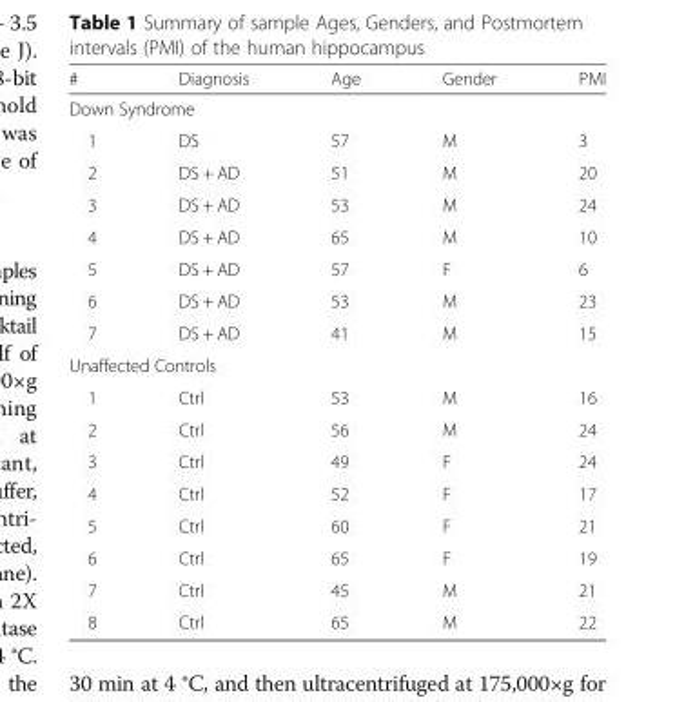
<table><thead><tr><td>#</td><td>Diagnosis</td><td>Age</td><td>Gender</td><td>PMI</td></tr></thead><tbody><tr><td colspan="5">Down Syndrome</td></tr><tr><td>1</td><td>DS</td><td>57</td><td>M</td><td>3</td></tr><tr><td>2</td><td>DS + AD</td><td>51</td><td>M</td><td>20</td></tr><tr><td>3</td><td>DS + AD</td><td>53</td><td>M</td><td>24</td></tr><tr><td>4</td><td>DS + AD</td><td>65</td><td>M</td><td>10</td></tr><tr><td>5</td><td>DS + AD</td><td>57</td><td>F</td><td>6</td></tr><tr><td>6</td><td>DS + AD</td><td>53</td><td>M</td><td>23</td></tr><tr><td>7</td><td>DS + AD</td><td>41</td><td>M</td><td>15</td></tr><tr><td colspan="5">Unaffected Controls</td></tr><tr><td>1</td><td>Ctrl</td><td>53</td><td>M</td><td>16</td></tr><tr><td>2</td><td>Ctrl</td><td>56</td><td>M</td><td>24</td></tr><tr><td>3</td><td>Ctrl</td><td>49</td><td>F</td><td>24</td></tr><tr><td>4</td><td>Ctrl</td><td>52</td><td>F</td><td>17</td></tr><tr><td>5</td><td>Ctrl</td><td>60</td><td>F</td><td>21</td></tr><tr><td>6</td><td>Ctrl</td><td>65</td><td>F</td><td>19</td></tr><tr><td>7</td><td>Ctrl</td><td>45</td><td>M</td><td>21</td></tr><tr><td>8</td><td>Ctrl</td><td>65</td><td>M</td><td>22</td></tr></tbody></table>